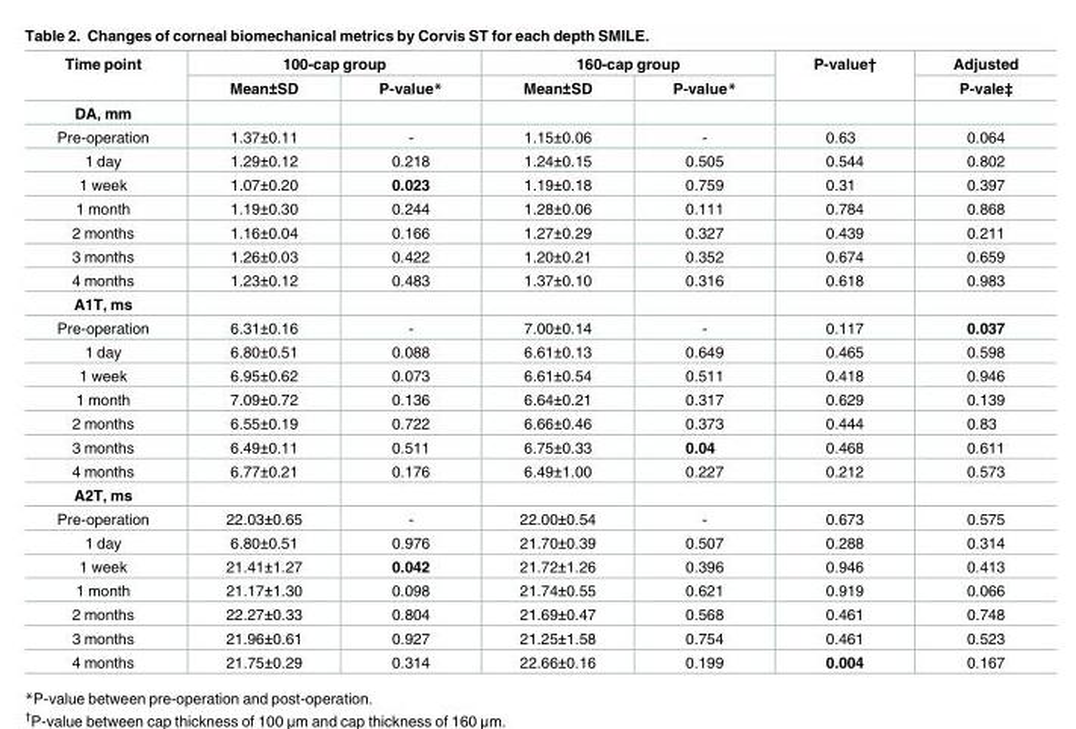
<table><thead><tr><td rowspan="2">Time point</td><td colspan="2">100-cap group</td><td colspan="2">160-cap group</td><td rowspan="2">P-value†</td><td rowspan="2">Adjusted P-vale‡</td></tr><tr><td>Mean±SD</td><td>P-value*</td><td>Mean±SD</td><td>P-value*</td></tr></thead><tbody><tr><td colspan="7">DA, mm</td></tr><tr><td>Pre-operation</td><td>1.37±0.11</td><td>-</td><td>1.15±0.06</td><td>-</td><td>0.63</td><td>0.064</td></tr><tr><td>1 day</td><td>1.29±0.12</td><td>0.218</td><td>1.24±0.15</td><td>0.505</td><td>0.544</td><td>0.802</td></tr><tr><td>1 week</td><td>1.07±0.20</td><td>0.023</td><td>1.19±0.18</td><td>0.759</td><td>0.31</td><td>0.397</td></tr><tr><td>1 month</td><td>1.19±0.30</td><td>0.244</td><td>1.28±0.06</td><td>0.111</td><td>0.784</td><td>0.868</td></tr><tr><td>2 months</td><td>1.16±0.04</td><td>0.166</td><td>1.27±0.29</td><td>0.327</td><td>0.439</td><td>0.211</td></tr><tr><td>3 months</td><td>1.26±0.03</td><td>0.422</td><td>1.20±0.21</td><td>0.352</td><td>0.674</td><td>0.659</td></tr><tr><td>4 months</td><td>1.23±0.12</td><td>0.483</td><td>1.37±0.10</td><td>0.316</td><td>0.618</td><td>0.983</td></tr><tr><td colspan="7">A1T, ms</td></tr><tr><td>Pre-operation</td><td>6.31±0.16</td><td>-</td><td>7.00±0.14</td><td>-</td><td>0.117</td><td>0.037</td></tr><tr><td>1 day</td><td>6.80±0.51</td><td>0.088</td><td>6.61±0.13</td><td>0.649</td><td>0.465</td><td>0.598</td></tr><tr><td>1 week</td><td>6.95±0.62</td><td>0.073</td><td>6.61±0.54</td><td>0.511</td><td>0.418</td><td>0.946</td></tr><tr><td>1 month</td><td>7.09±0.72</td><td>0.136</td><td>6.64±0.21</td><td>0.317</td><td>0.629</td><td>0.139</td></tr><tr><td>2 months</td><td>6.55±0.19</td><td>0.722</td><td>6.66±0.46</td><td>0.373</td><td>0.444</td><td>0.83</td></tr><tr><td>3 months</td><td>6.49±0.11</td><td>0.511</td><td>6.75±0.33</td><td>0.04</td><td>0.468</td><td>0.611</td></tr><tr><td>4 months</td><td>6.77±0.21</td><td>0.176</td><td>6.49±1.00</td><td>0.227</td><td>0.212</td><td>0.573</td></tr><tr><td colspan="7">A2T, ms</td></tr><tr><td>Pre-operation</td><td>22.03±0.65</td><td>-</td><td>22.00±0.54</td><td>-</td><td>0.673</td><td>0.575</td></tr><tr><td>1 day</td><td>6.80±0.51</td><td>0.976</td><td>21.70±0.39</td><td>0.507</td><td>0.288</td><td>0.314</td></tr><tr><td>1 week</td><td>21.41±1.27</td><td>0.042</td><td>21.72±1.26</td><td>0.396</td><td>0.946</td><td>0.413</td></tr><tr><td>1 month</td><td>21.17±1.30</td><td>0.098</td><td>21.74±0.55</td><td>0.621</td><td>0.919</td><td>0.066</td></tr><tr><td>2 months</td><td>22.27±0.33</td><td>0.804</td><td>21.69±0.47</td><td>0.568</td><td>0.461</td><td>0.748</td></tr><tr><td>3 months</td><td>21.96±0.61</td><td>0.927</td><td>21.25±1.58</td><td>0.754</td><td>0.461</td><td>0.523</td></tr><tr><td>4 months</td><td>21.75±0.29</td><td>0.314</td><td>22.66±0.16</td><td>0.199</td><td>0.004</td><td>0.167</td></tr></tbody></table>